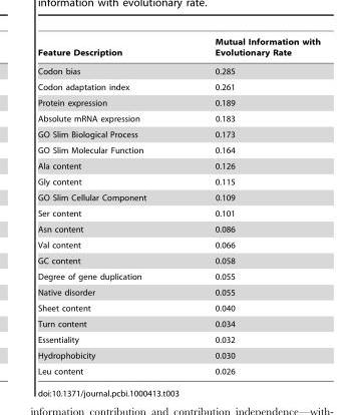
<table><thead><tr><td>Feature Description</td><td>Mutual Information with Evolutionary Rate</td></tr></thead><tbody><tr><td>Codon bias</td><td>0.285</td></tr><tr><td>Codon adaptation index</td><td>0.261</td></tr><tr><td>Protein expression</td><td>0.189</td></tr><tr><td>Absolute mRNA expression</td><td>0.183</td></tr><tr><td>GO Slim Biological Process</td><td>0.173</td></tr><tr><td>GO Slim Molecular Function</td><td>0.164</td></tr><tr><td>Ala content</td><td>0.126</td></tr><tr><td>Gly content</td><td>0.115</td></tr><tr><td>GO Slim Cellular Component</td><td>0.109</td></tr><tr><td>Ser content</td><td>0.101</td></tr><tr><td>Asn content</td><td>0.086</td></tr><tr><td>Val content</td><td>0.066</td></tr><tr><td>GC content</td><td>0.058</td></tr><tr><td>Degree of gene duplication</td><td>0.055</td></tr><tr><td>Native disorder</td><td>0.055</td></tr><tr><td>Sheet content</td><td>0.040</td></tr><tr><td>Turn content</td><td>0.034</td></tr><tr><td>Essentiality</td><td>0.032</td></tr><tr><td>Hydrophobicity</td><td>0.030</td></tr><tr><td>Leu content</td><td>0.026</td></tr></tbody></table>